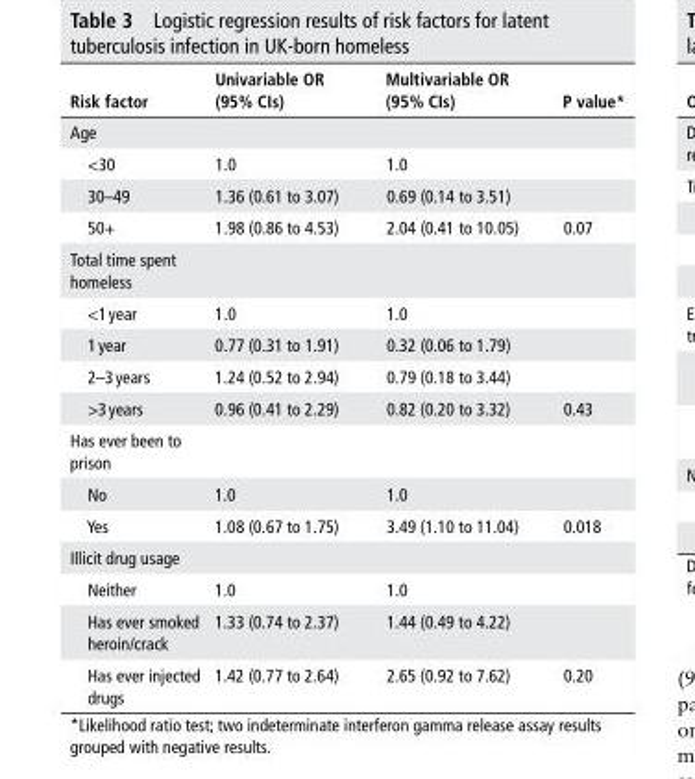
<table><thead><tr><td>risk factor</td><td>univariable or (95% CIs)</td><td>Multivariable or (95% CIs)</td><td>P value*</td></tr></thead><tbody><tr><td colspan="4">Age</td></tr><tr><td>&lt;30</td><td>1.0</td><td>1.0</td><td></td></tr><tr><td>30–49</td><td>1.36 (0.61 to 3.07)</td><td>0.69 (0.14 to 3.51)</td><td></td></tr><tr><td>50+</td><td>1.98 (0.86 to 4.53)</td><td>2.04 (0.41 to 10.05)</td><td>0.07</td></tr><tr><td colspan="4">Total time spent homeless</td></tr><tr><td>&lt;1 year</td><td>1.0</td><td>1.0</td><td></td></tr><tr><td>1 year</td><td>0.77 (0.31 to 1.91)</td><td>0.32 (0.06 to 1.79)</td><td></td></tr><tr><td>2–3 years</td><td>1.24 (0.52 to 2.94)</td><td>0.79 (0.18 to 3.44)</td><td></td></tr><tr><td>&gt;3 years</td><td>0.96 (0.41 to 2.29)</td><td>0.82 (0.20 to 3.32)</td><td>0.43</td></tr><tr><td colspan="4">Has ever been to prison</td></tr><tr><td>No</td><td>1.0</td><td>1.0</td><td></td></tr><tr><td>Yes</td><td>1.08 (0.67 to 1.75)</td><td>3.49 (1.10 to 11.04)</td><td>0.018</td></tr><tr><td colspan="4">Illicit drug usage</td></tr><tr><td>Neither</td><td>1.0</td><td>1.0</td><td></td></tr><tr><td>Has ever smoked heroin/crack</td><td>1.33 (0.74 to 2.37)</td><td>1.44 (0.49 to 4.22)</td><td></td></tr><tr><td>Has ever injected drugs</td><td>1.42 (0.77 to 2.64)</td><td>2.65 (0.92 to 7.62)</td><td>0.20</td></tr></tbody></table>